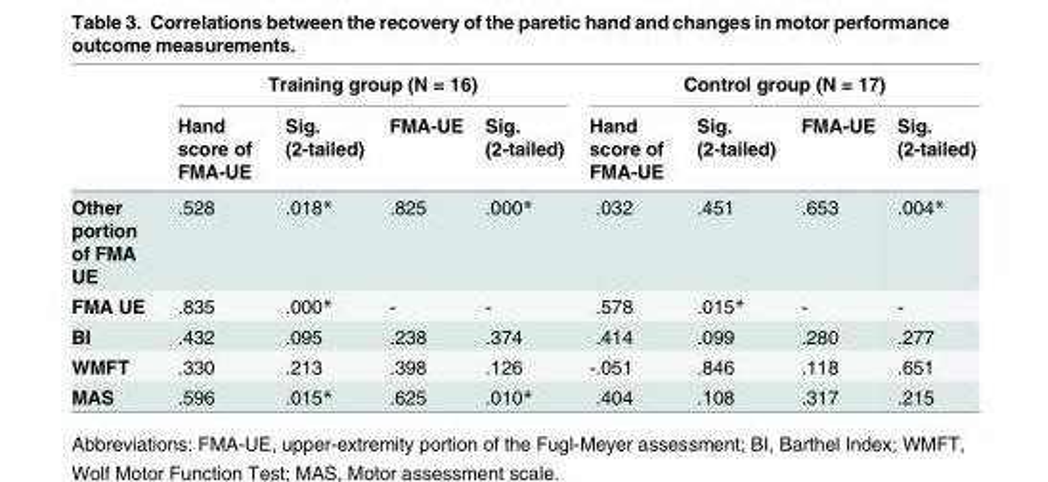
<table><thead><tr><td rowspan="2"></td><td colspan="4">Training group (N = 16)</td><td colspan="4">Control group (N = 17)</td></tr><tr><td>Hand score of FMA-UE</td><td>Sig. (2-tailed)</td><td>FMA-UE</td><td>Sig. (2-tailed)</td><td>Hand score of FMA-UE</td><td>Sig. (2-tailed)</td><td>FMA-UE</td><td>Sig. (2-tailed)</td></tr></thead><tbody><tr><td>Other portion of FMA UE</td><td>.528</td><td>.018*</td><td>.825</td><td>.000*</td><td>.032</td><td>.451</td><td>.653</td><td>.004*</td></tr><tr><td>FMA UE</td><td>.835</td><td>.000*</td><td>-</td><td>-</td><td>.578</td><td>.015*</td><td>-</td><td>-</td></tr><tr><td>BI</td><td>.432</td><td>.095</td><td>.238</td><td>.374</td><td>.414</td><td>.099</td><td>.280</td><td>.277</td></tr><tr><td>WMFT</td><td>.330</td><td>.213</td><td>.398</td><td>.126</td><td>-.051</td><td>.846</td><td>.118</td><td>.651</td></tr><tr><td>MAS</td><td>.596</td><td>.015*</td><td>.625</td><td>.010*</td><td>.404</td><td>.108</td><td>.317</td><td>.215</td></tr></tbody></table>